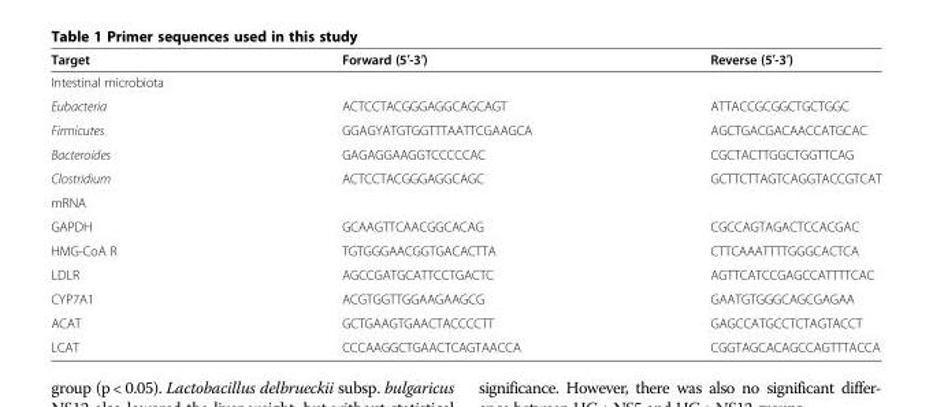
<table><thead><tr><td>Target</td><td>Forward (5′-3′)</td><td>Reverse (5′-3′)</td></tr></thead><tbody><tr><td colspan="3">Intestinal microbiota</td></tr><tr><td>Eubacteria</td><td>ACTCCTACGGGAGGCAGCAGT</td><td>ATTACCGCGGCTGCTGGC</td></tr><tr><td>Firmicutes</td><td>GGAGYATGTGGTTTAATTCGAAGCA</td><td>AGCTGACGACAACCATGCAC</td></tr><tr><td>Bacteroides</td><td>GAGAGGAAGGTCCCCCAC</td><td>CGCTACTTGGCTGGTTCAG</td></tr><tr><td>Clostridium</td><td>ACTCCTACGGGAGGCAGC</td><td>GCTTCTTAGTCAGGTACCGTCAT</td></tr><tr><td colspan="3">mRNA</td></tr><tr><td>GAPDH</td><td>GCAAGTTCAACGGCACAG</td><td>CGCCAGTAGACTCCACGAC</td></tr><tr><td>HMG-CoA R</td><td>TGTGGGAACGGTGACACTTA</td><td>CTTCAAATTTTGGGCACTCA</td></tr><tr><td>LDLR</td><td>AGCCGATGCATTCCTGACTC</td><td>AGTTCATCCGAGCCATTTTCAC</td></tr><tr><td>CYP7A1</td><td>ACGTGGTTGGAAGAAGCG</td><td>GAATGTGGGCAGCGAGAA</td></tr><tr><td>ACAT</td><td>GCTGAAGTGAACTACCCCTT</td><td>GAGCCATGCCTCTAGTACCT</td></tr><tr><td>LCAT</td><td>CCCAAGGCTGAACTCAGTAACCA</td><td>CGGTAGCACAGCCAGTTTACCA</td></tr></tbody></table>